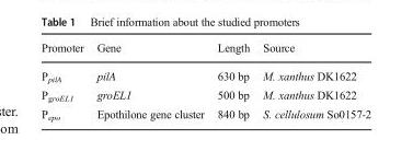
<table><thead><tr><td>Promoter</td><td>Gene</td><td>Length</td><td>Source</td></tr></thead><tbody><tr><td>P<sub>pilA</sub></td><td>pilA</td><td>630 bp</td><td>M. xanthus DK1622</td></tr><tr><td>P<sub>groEL1</sub></td><td>groEL1</td><td>500 bp</td><td>M. xanthus DK1622</td></tr><tr><td>P<sub>epo</sub></td><td>Epothilone gene cluster</td><td>840 bp</td><td>S. cellulosum So0157-2</td></tr></tbody></table>